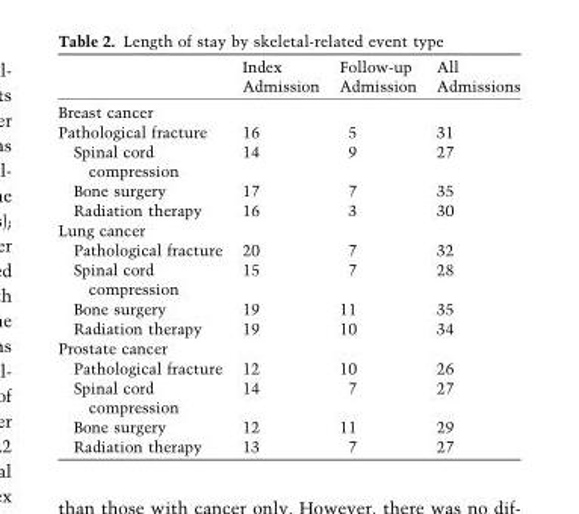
<table><thead><tr><td></td><td>Index Admission</td><td>Follow-up Admission</td><td>All Admissions</td></tr></thead><tbody><tr><td colspan="4">Breast cancer</td></tr><tr><td>Pathological fracture</td><td>16</td><td>5</td><td>31</td></tr><tr><td>Spinal cord compression</td><td>14</td><td>9</td><td>27</td></tr><tr><td>Bone surgery</td><td>17</td><td>7</td><td>35</td></tr><tr><td>Radiation therapy</td><td>16</td><td>3</td><td>30</td></tr><tr><td colspan="4">Lung cancer</td></tr><tr><td>Pathological fracture</td><td>20</td><td>7</td><td>32</td></tr><tr><td>Spinal cord compression</td><td>15</td><td>7</td><td>28</td></tr><tr><td>Bone surgery</td><td>19</td><td>11</td><td>35</td></tr><tr><td>Radiation therapy</td><td>19</td><td>10</td><td>34</td></tr><tr><td colspan="4">Prostate cancer</td></tr><tr><td>Pathological fracture</td><td>12</td><td>10</td><td>26</td></tr><tr><td>Spinal cord compression</td><td>14</td><td>7</td><td>27</td></tr><tr><td>Bone surgery</td><td>12</td><td>11</td><td>29</td></tr><tr><td>Radiation therapy</td><td>13</td><td>7</td><td>27</td></tr></tbody></table>